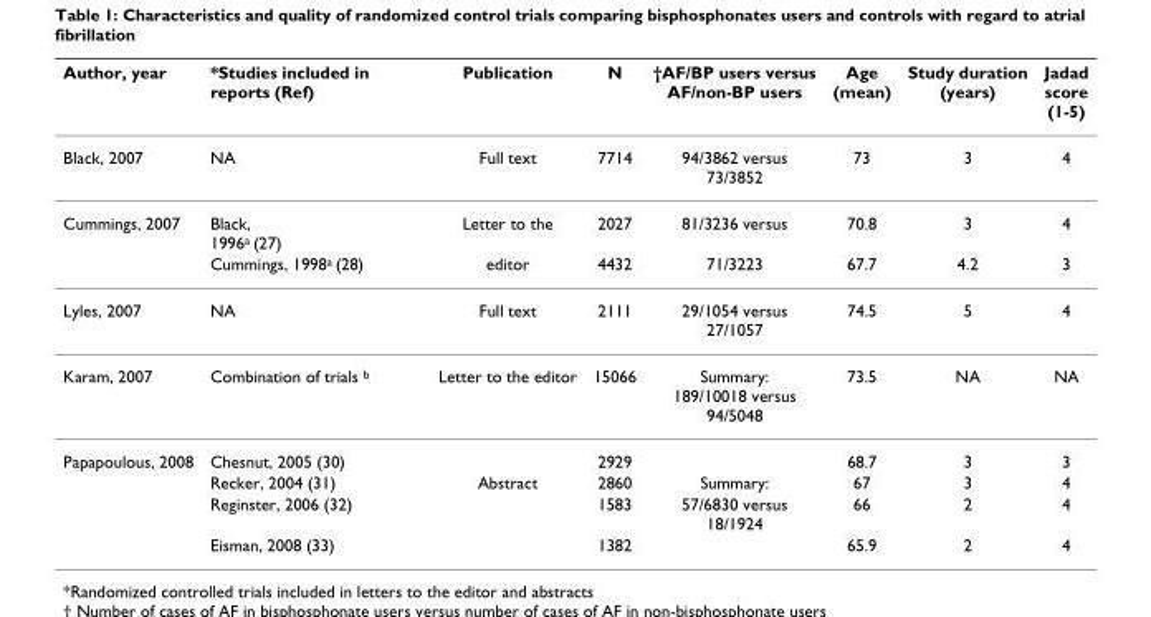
<table><thead><tr><td>Author, year</td><td>*Studies included in reports (Ref)</td><td>Publication</td><td>N</td><td>†AF/BP users versus AF/non-BP users</td><td>Age (mean)</td><td>Study duration (years)</td><td>Jadad score (1-5)</td></tr></thead><tbody><tr><td>Black, 2007</td><td>NA</td><td>Full text</td><td>7714</td><td>94/3862 versus 73/3852</td><td>73</td><td>3</td><td>4</td></tr><tr><td rowspan="2">Cummings, 2007</td><td>Black, 1996<sup>a</sup> (27)</td><td>Letter to the</td><td>2027</td><td>81/3236 versus</td><td>70.8</td><td>3</td><td>4</td></tr><tr><td>Cummings, 1998<sup>a</sup> (28)</td><td>editor</td><td>4432</td><td>71/3223</td><td>67.7</td><td>4.2</td><td>3</td></tr><tr><td>Lyles, 2007</td><td>NA</td><td>Full text</td><td>2111</td><td>29/1054 versus 27/1057</td><td>74.5</td><td>5</td><td>4</td></tr><tr><td>Karam, 2007</td><td>Combination of trials <sup>b</sup></td><td>Letter to the editor</td><td>15066</td><td>Summary: 189/10018 versus 94/5048</td><td>73.5</td><td>NA</td><td>NA</td></tr><tr><td rowspan="4">Papapoulous, 2008</td><td>Chesnut, 2005 (30)</td><td></td><td>2929</td><td></td><td>68.7</td><td>3</td><td>3</td></tr><tr><td>Recker, 2004 (31)</td><td>Abstract</td><td>2860</td><td>Summary:</td><td>67</td><td>3</td><td>4</td></tr><tr><td>Reginster, 2006 (32)</td><td></td><td>1583</td><td>57/6830 versus 18/1924</td><td>66</td><td>2</td><td>4</td></tr><tr><td>Eisman, 2008 (33)</td><td></td><td>1382</td><td></td><td>65.9</td><td>2</td><td>4</td></tr></tbody></table>